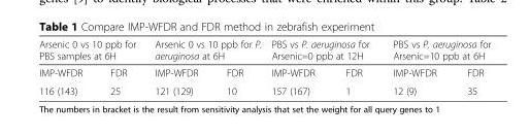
<table><thead><tr><td colspan="2">Arsenic 0 vs 10 ppb for PBS samples at 6H</td><td colspan="2">Arsenic 0 vs 10 ppb for P. aeruginosa at 6H</td><td colspan="2">PBS vs P. aeruginosa for Arsenic=0 ppb at 12H</td><td colspan="2">PBS vs P. aeruginosa for Arsenic=10 ppb at 6H</td></tr><tr><td>IMP-WFDR</td><td>FDR</td><td>IMP-WFDR</td><td>FDR</td><td>IMP-WFDR</td><td>FDR</td><td>IMP-WFDR</td><td>FDR</td></tr></thead><tbody><tr><td>116 (143)</td><td>25</td><td>121 (129)</td><td>10</td><td>157 (167)</td><td>1</td><td>12 (9)</td><td>35</td></tr></tbody></table>